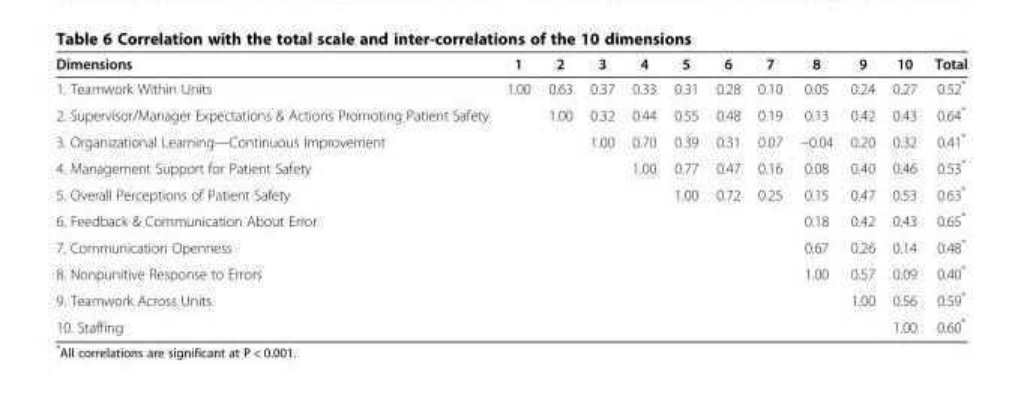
<table><thead><tr><td>Dimensions</td><td>1</td><td>2</td><td>3</td><td>4</td><td>5</td><td>6</td><td>7</td><td>8</td><td>9</td><td>10</td><td>Total</td></tr></thead><tbody><tr><td>1. Teamwork Within Units</td><td>1.00</td><td>0.63</td><td>0.37</td><td>0.33</td><td>0.31</td><td>0.28</td><td>0.10</td><td>0.05</td><td>0.24</td><td>0.27</td><td>0.52*</td></tr><tr><td>2. Supervisor/Manager Expectations &amp; Actions Promoting Patient Safety</td><td></td><td>1.00</td><td>0.32</td><td>0.44</td><td>0.55</td><td>0.48</td><td>0.19</td><td>0.13</td><td>0.42</td><td>0.43</td><td>0.64*</td></tr><tr><td>3. Organizational Learning—Continuous Improvement</td><td></td><td></td><td>1.00</td><td>0.70</td><td>0.39</td><td>0.31</td><td>0.07</td><td>−0.04</td><td>0.20</td><td>0.32</td><td>0.41*</td></tr><tr><td>4. Management Support for Patient Safety</td><td></td><td></td><td></td><td>1.00</td><td>0.77</td><td>0.47</td><td>0.16</td><td>0.08</td><td>0.40</td><td>0.46</td><td>0.53*</td></tr><tr><td>5. Overall Perceptions of Patient Safety</td><td></td><td></td><td></td><td></td><td>1.00</td><td>0.72</td><td>0.25</td><td>0.15</td><td>0.47</td><td>0.53</td><td>0.63*</td></tr><tr><td>6. Feedback &amp; Communication About Error</td><td></td><td></td><td></td><td></td><td></td><td></td><td></td><td>0.18</td><td>0.42</td><td>0.43</td><td>0.65*</td></tr><tr><td>7. Communication Openness</td><td></td><td></td><td></td><td></td><td></td><td></td><td></td><td>0.67</td><td>0.26</td><td>0.14</td><td>0.48*</td></tr><tr><td>8. Nonpunitive Response to Errors</td><td></td><td></td><td></td><td></td><td></td><td></td><td></td><td>1.00</td><td>0.57</td><td>0.09</td><td>0.40*</td></tr><tr><td>9. Teamwork Across Units</td><td></td><td></td><td></td><td></td><td></td><td></td><td></td><td></td><td>1.00</td><td>0.56</td><td>0.59*</td></tr><tr><td>10. Staffing</td><td></td><td></td><td></td><td></td><td></td><td></td><td></td><td></td><td></td><td>1.00</td><td>0.60*</td></tr></tbody></table>